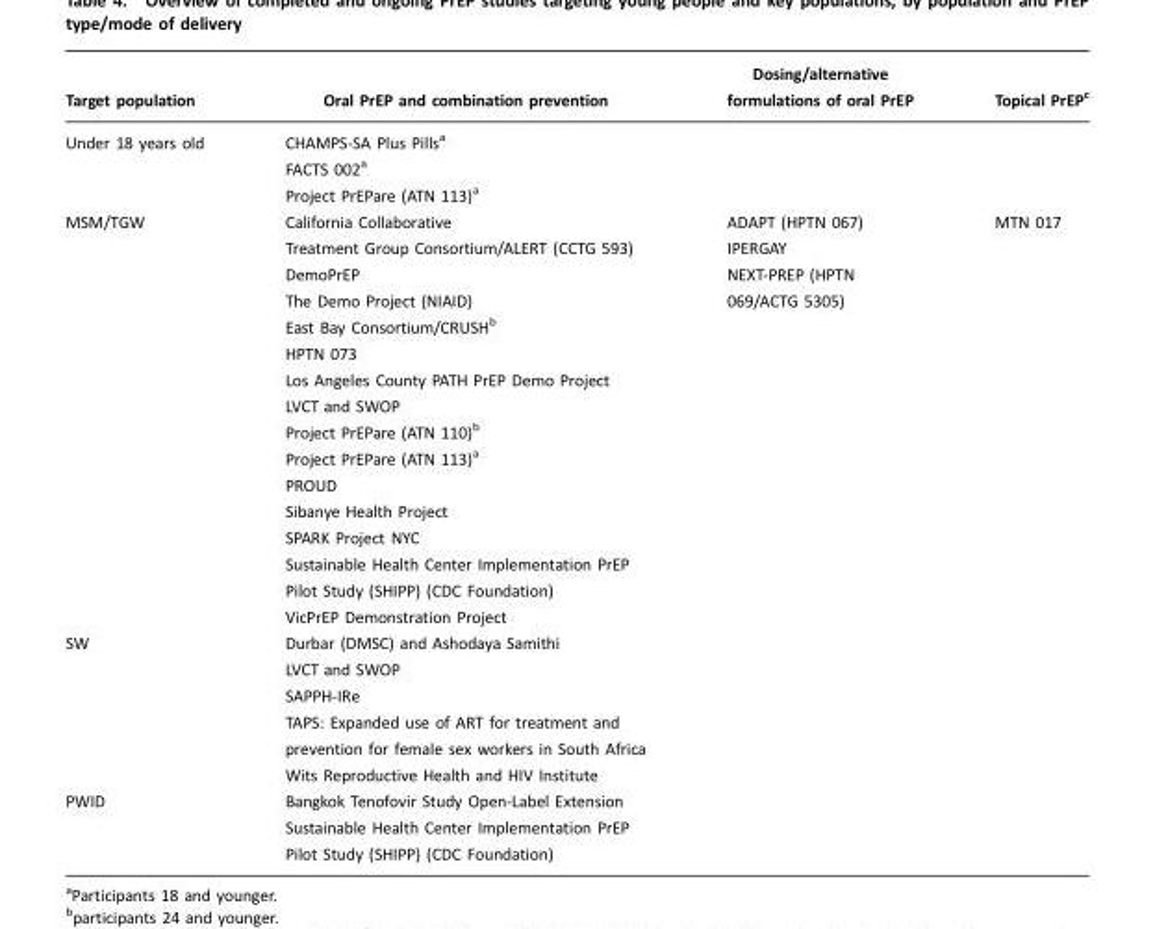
<table><thead><tr><td>Target population</td><td>Oral PrEP and combination prevention</td><td>Dosing/alternative formulations of oral PrEP</td><td>Topical PrEPc</td></tr></thead><tbody><tr><td>Under 18 years old</td><td>CHAMPS-SA Plus Pillsa FACTS 002a Project PrEPare (ATN 113)a</td><td></td><td></td></tr><tr><td>MSM/TGW</td><td>California Collaborative Treatment Group Consortium/ALERT (CCTG 593) DemoPrEP The Demo Project (NIAID) East Bay Consortium/CRUSHb HPTN 073 Los Angeles County PATH PrEP Demo Project LVCT and SWOP Project PrEPare (ATN 110)b Project PrEPare (ATN 113)a PROUD Sibanye Health Project SPARK Project NYC Sustainable Health Center Implementation PrEP Pilot Study (SHIPP) (CDC Foundation) VicPrEP Demonstration Project</td><td>ADAPT (HPTN 067) IPERGAY NEXT-PREP (HPTN 069/ACTG 5305)</td><td>MTN 017</td></tr><tr><td>SW</td><td>Durbar (DMSC) and Ashodaya Samithi LVCT and SWOP SAPPH-IRe TAPS: Expanded use of ART for treatment and prevention for female sex workers in South Africa Wits Reproductive Health and HIV Institute</td><td></td><td></td></tr><tr><td>PWID</td><td>Bangkok Tenofovir Study Open-Label Extension Sustainable Health Center Implementation PrEP Pilot Study (SHIPP) (CDC Foundation)</td><td></td><td></td></tr></tbody></table>